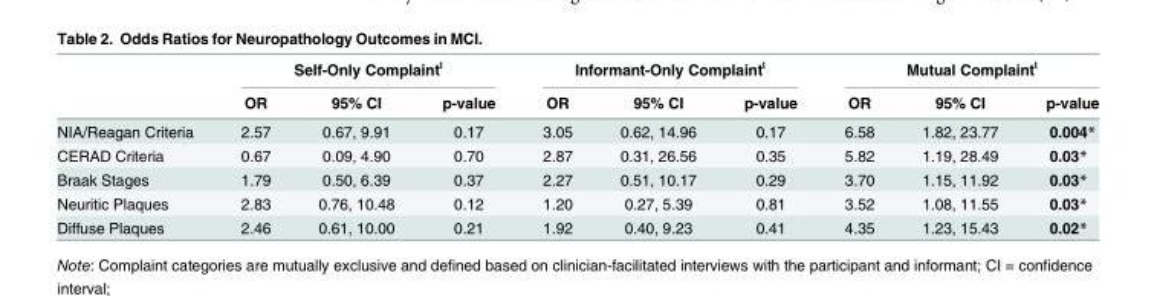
<table><thead><tr><td rowspan="2"></td><td colspan="3">Self-Only Complaint<sup>ŧ</sup></td><td colspan="3">Informant-Only Complaint<sup>ŧ</sup></td><td colspan="3">Mutual Complaint<sup>ŧ</sup></td></tr><tr><td>OR</td><td>95% CI</td><td>p-value</td><td>OR</td><td>95% CI</td><td>p-value</td><td>OR</td><td>95% CI</td><td>p-value</td></tr></thead><tbody><tr><td>NIA/Reagan Criteria</td><td>2.57</td><td>0.67, 9.91</td><td>0.17</td><td>3.05</td><td>0.62, 14.96</td><td>0.17</td><td>6.58</td><td>1.82, 23.77</td><td>0.004*</td></tr><tr><td>CERAD Criteria</td><td>0.67</td><td>0.09, 4.90</td><td>0.70</td><td>2.87</td><td>0.31, 26.56</td><td>0.35</td><td>5.82</td><td>1.19, 28.49</td><td>0.03*</td></tr><tr><td>Braak Stages</td><td>1.79</td><td>0.50, 6.39</td><td>0.37</td><td>2.27</td><td>0.51, 10.17</td><td>0.29</td><td>3.70</td><td>1.15, 11.92</td><td>0.03*</td></tr><tr><td>Neuritic Plaques</td><td>2.83</td><td>0.76, 10.48</td><td>0.12</td><td>1.20</td><td>0.27, 5.39</td><td>0.81</td><td>3.52</td><td>1.08, 11.55</td><td>0.03*</td></tr><tr><td>Diffuse Plaques</td><td>2.46</td><td>0.61, 10.00</td><td>0.21</td><td>1.92</td><td>0.40, 9.23</td><td>0.41</td><td>4.35</td><td>1.23, 15.43</td><td>0.02*</td></tr></tbody></table>